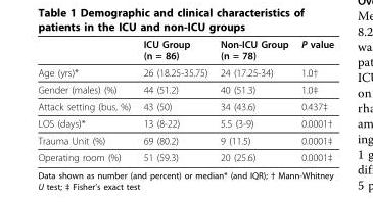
<table><thead><tr><td></td><td>ICU Group (n = 86)</td><td>Non-ICU Group (n = 78)</td><td>P value</td></tr></thead><tbody><tr><td>Age (yrs)*</td><td>26 (18.25-35.75)</td><td>24 (17.25-34)</td><td>1.0†</td></tr><tr><td>Gender (males) (%)</td><td>44 (51.2)</td><td>40 (51.3)</td><td>1.0‡</td></tr><tr><td>Attack setting (bus, %)</td><td>43 (50)</td><td>34 (43.6)</td><td>0.437‡</td></tr><tr><td>LOS (days)*</td><td>13 (8-22)</td><td>5.5 (3-9)</td><td>0.0001†</td></tr><tr><td>Trauma Unit (%)</td><td>69 (80.2)</td><td>9 (11.5)</td><td>0.0001‡</td></tr><tr><td>Operating room (%)</td><td>51 (59.3)</td><td>20 (25.6)</td><td>0.0001‡</td></tr></tbody></table>